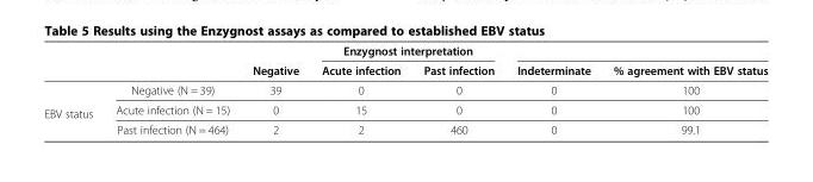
<table><thead><tr><td rowspan="2"></td><td rowspan="2"></td><td rowspan="2">Negative</td><td colspan="2">Enzygnost interpretation</td><td rowspan="2">Indeterminate</td><td rowspan="2">% agreement with EBV status</td></tr><tr><td>Acute infection</td><td>Past infection</td></tr></thead><tbody><tr><td rowspan="3">EBV status</td><td>Negative (N = 39)</td><td>39</td><td>0</td><td>0</td><td>0</td><td>100</td></tr><tr><td>Acute infection (N = 15)</td><td>0</td><td>15</td><td>0</td><td>0</td><td>100</td></tr><tr><td>Past infection (N = 464)</td><td>2</td><td>2</td><td>460</td><td>0</td><td>99.1</td></tr></tbody></table>